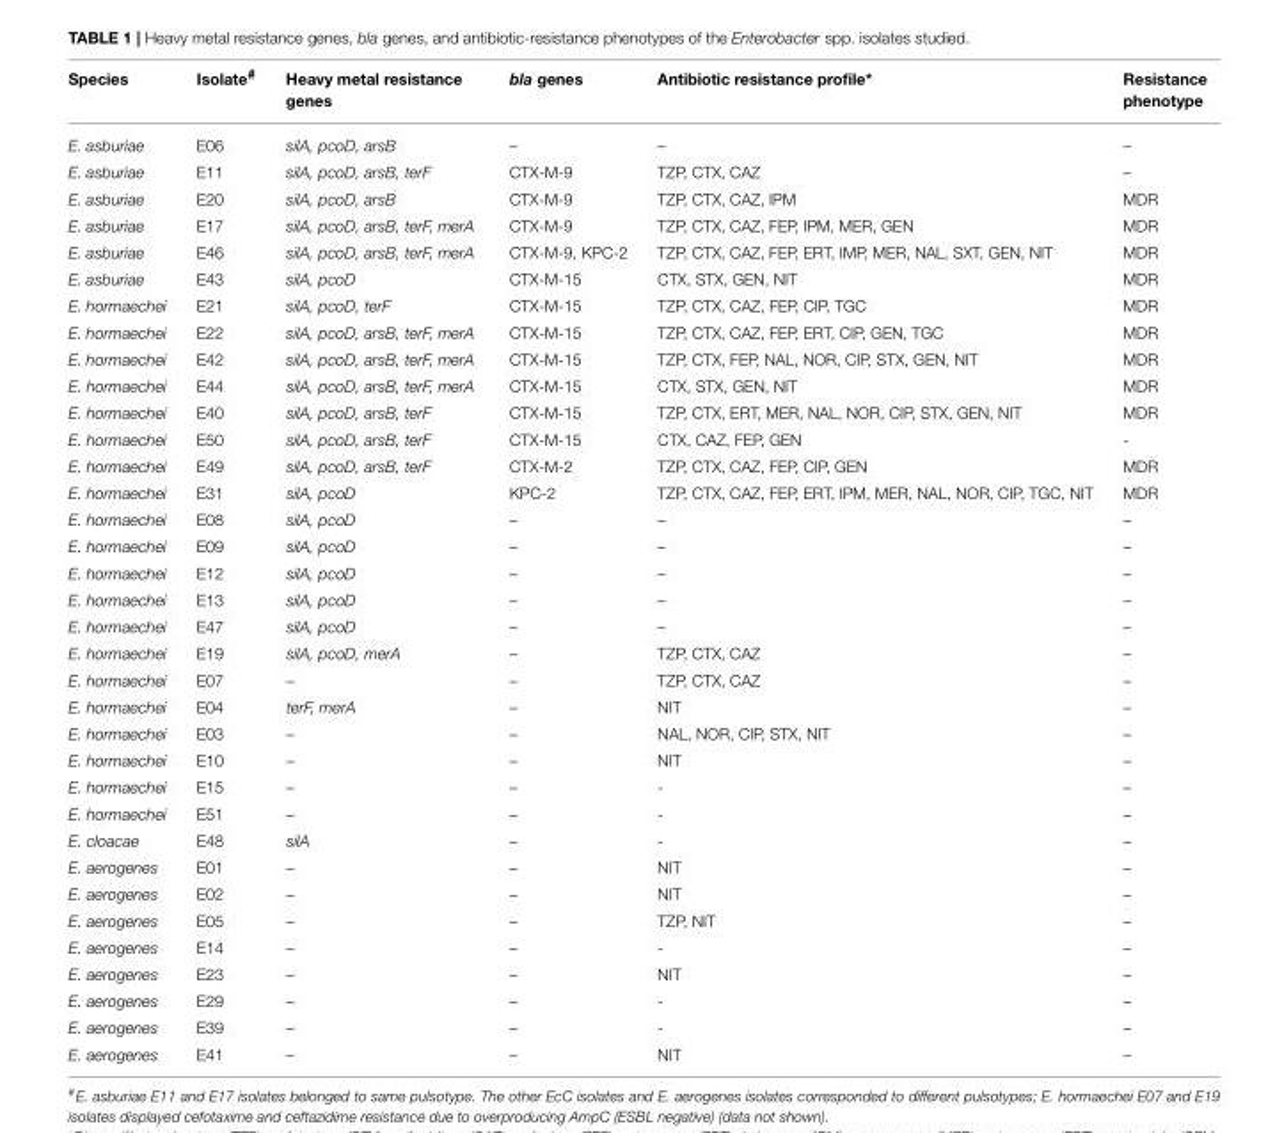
<table><thead><tr><td>Species</td><td>Isolate<sup>#</sup></td><td>Heavy metal resistance genes</td><td>bla genes</td><td>Antibiotic resistance profile*</td><td>Resistance phenotype</td></tr></thead><tbody><tr><td>E. asburiae</td><td>E06</td><td>silA, pcoD, arsB</td><td>–</td><td>–</td><td>–</td></tr><tr><td>E. asburiae</td><td>E11</td><td>silA, pcoD, arsB, terF</td><td>CTX-M-9</td><td>TZP, CTX, CAZ</td><td>–</td></tr><tr><td>E. asburiae</td><td>E20</td><td>silA, pcoD, arsB</td><td>CTX-M-9</td><td>TZP, CTX, CAZ, IPM</td><td>MDR</td></tr><tr><td>E. asburiae</td><td>E17</td><td>silA, pcoD, arsB, terF, merA</td><td>CTX-M-9</td><td>TZP, CTX, CAZ, FEP, IPM, MER, GEN</td><td>MDR</td></tr><tr><td>E. asburiae</td><td>E46</td><td>silA, pcoD, arsB, terF, merA</td><td>CTX-M-9, KPC-2</td><td>TZP, CTX, CAZ, FEP, ERT, IMP, MER, NAL, SXT, GEN, NIT</td><td>MDR</td></tr><tr><td>E. asburiae</td><td>E43</td><td>silA, pcoD</td><td>CTX-M-15</td><td>CTX, STX, GEN, NIT</td><td>MDR</td></tr><tr><td>E. hormaechei</td><td>E21</td><td>silA, pcoD, terF</td><td>CTX-M-15</td><td>TZP, CTX, CAZ, FEP, CIP, TGC</td><td>MDR</td></tr><tr><td>E. hormaechei</td><td>E22</td><td>silA, pcoD, arsB, terF, merA</td><td>CTX-M-15</td><td>TZP, CTX, CAZ, FEP, ERT, CIP, GEN, TGC</td><td>MDR</td></tr><tr><td>E. hormaechei</td><td>E42</td><td>silA, pcoD, arsB, terF, merA</td><td>CTX-M-15</td><td>TZP, CTX, FEP, NAL, NOR, CIP, STX, GEN, NIT</td><td>MDR</td></tr><tr><td>E. hormaechei</td><td>E44</td><td>silA, pcoD, arsB, terF, merA</td><td>CTX-M-15</td><td>CTX, STX, GEN, NIT</td><td>MDR</td></tr><tr><td>E. hormaechei</td><td>E40</td><td>silA, pcoD, arsB, terF</td><td>CTX-M-15</td><td>TZP, CTX, ERT, MER, NAL, NOR, CIP, STX, GEN, NIT</td><td>MDR</td></tr><tr><td>E. hormaechei</td><td>E50</td><td>silA, pcoD, arsB, terF</td><td>CTX-M-15</td><td>CTX, CAZ, FEP, GEN</td><td>-</td></tr><tr><td>E. hormaechei</td><td>E49</td><td>silA, pcoD, arsB, terF</td><td>CTX-M-2</td><td>TZP, CTX, CAZ, FEP, CIP, GEN</td><td>MDR</td></tr><tr><td>E. hormaechei</td><td>E31</td><td>silA, pcoD</td><td>KPC-2</td><td>TZP, CTX, CAZ, FEP, ERT, IPM, MER, NAL, NOR, CIP, TGC, NIT</td><td>MDR</td></tr><tr><td>E. hormaechei</td><td>E08</td><td>silA, pcoD</td><td>–</td><td>–</td><td>–</td></tr><tr><td>E. hormaechei</td><td>E09</td><td>silA, pcoD</td><td>–</td><td>–</td><td>–</td></tr><tr><td>E. hormaechei</td><td>E12</td><td>silA, pcoD</td><td>–</td><td>–</td><td>–</td></tr><tr><td>E. hormaechei</td><td>E13</td><td>silA, pcoD</td><td>–</td><td>–</td><td>–</td></tr><tr><td>E. hormaechei</td><td>E47</td><td>silA, pcoD</td><td>–</td><td>–</td><td>–</td></tr><tr><td>E. hormaechei</td><td>E19</td><td>silA, pcoD, merA</td><td>–</td><td>TZP, CTX, CAZ</td><td>–</td></tr><tr><td>E. hormaechei</td><td>E07</td><td>–</td><td>–</td><td>TZP, CTX, CAZ</td><td>–</td></tr><tr><td>E. hormaechei</td><td>E04</td><td>terF, merA</td><td>–</td><td>NIT</td><td>–</td></tr><tr><td>E. hormaechei</td><td>E03</td><td>–</td><td>–</td><td>NAL, NOR, CIP, STX, NIT</td><td>–</td></tr><tr><td>E. hormaechei</td><td>E10</td><td>–</td><td>–</td><td>NIT</td><td>–</td></tr><tr><td>E. hormaechei</td><td>E15</td><td>–</td><td>–</td><td>-</td><td>–</td></tr><tr><td>E. hormaechei</td><td>E51</td><td>–</td><td>–</td><td>-</td><td>–</td></tr><tr><td>E. cloacae</td><td>E48</td><td>silA</td><td>–</td><td>-</td><td>–</td></tr><tr><td>E. aerogenes</td><td>E01</td><td>–</td><td>–</td><td>NIT</td><td>–</td></tr><tr><td>E. aerogenes</td><td>E02</td><td>–</td><td>–</td><td>NIT</td><td>–</td></tr><tr><td>E. aerogenes</td><td>E05</td><td>–</td><td>–</td><td>TZP, NIT</td><td>–</td></tr><tr><td>E. aerogenes</td><td>E14</td><td>–</td><td>–</td><td>-</td><td>–</td></tr><tr><td>E. aerogenes</td><td>E23</td><td>–</td><td>–</td><td>NIT</td><td>–</td></tr><tr><td>E. aerogenes</td><td>E29</td><td>–</td><td>–</td><td>-</td><td>–</td></tr><tr><td>E. aerogenes</td><td>E39</td><td>–</td><td>–</td><td>-</td><td>–</td></tr><tr><td>E. aerogenes</td><td>E41</td><td>–</td><td>–</td><td>NIT</td><td>–</td></tr></tbody></table>